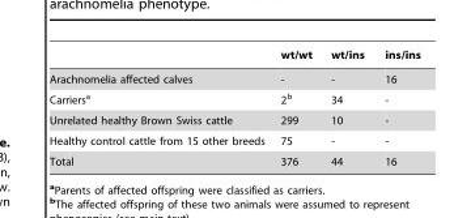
<table><thead><tr><td></td><td>wt/wt</td><td>wt/ins</td><td>ins/ins</td></tr></thead><tbody><tr><td>Arachnomelia affected calves</td><td>-</td><td>-</td><td>16</td></tr><tr><td>Carriers<sup>a</sup></td><td>2<sup>b</sup></td><td>34</td><td>-</td></tr><tr><td>Unrelated healthy Brown Swiss cattle</td><td>299</td><td>10</td><td>-</td></tr><tr><td>Healthy control cattle from 15 other breeds</td><td>75</td><td>-</td><td>-</td></tr><tr><td>Total</td><td>376</td><td>44</td><td>16</td></tr></tbody></table>